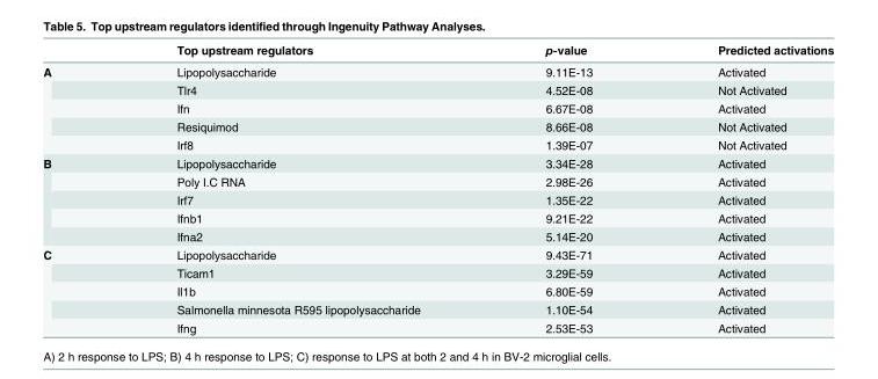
<table><thead><tr><td></td><td>Top upstream regulators</td><td>p-value</td><td>Predicted activations</td></tr></thead><tbody><tr><td rowspan="5">A</td><td>Lipopolysaccharide</td><td>9.11E-13</td><td>Activated</td></tr><tr><td>Tlr4</td><td>4.52E-08</td><td>Not Activated</td></tr><tr><td>Ifn</td><td>6.67E-08</td><td>Activated</td></tr><tr><td>Resiquimod</td><td>8.66E-08</td><td>Not Activated</td></tr><tr><td>Irf8</td><td>1.39E-07</td><td>Not Activated</td></tr><tr><td rowspan="5">B</td><td>Lipopolysaccharide</td><td>3.34E-28</td><td>Activated</td></tr><tr><td>Poly I.C RNA</td><td>2.98E-26</td><td>Activated</td></tr><tr><td>Irf7</td><td>1.35E-22</td><td>Activated</td></tr><tr><td>Ifnb1</td><td>9.21E-22</td><td>Activated</td></tr><tr><td>Ifna2</td><td>5.14E-20</td><td>Activated</td></tr><tr><td rowspan="5">C</td><td>Lipopolysaccharide</td><td>9.43E-71</td><td>Activated</td></tr><tr><td>Ticam1</td><td>3.29E-59</td><td>Activated</td></tr><tr><td>Il1b</td><td>6.80E-59</td><td>Activated</td></tr><tr><td>Salmonella minnesota R595 lipopolysaccharide</td><td>1.10E-54</td><td>Activated</td></tr><tr><td>Ifng</td><td>2.53E-53</td><td>Activated</td></tr></tbody></table>